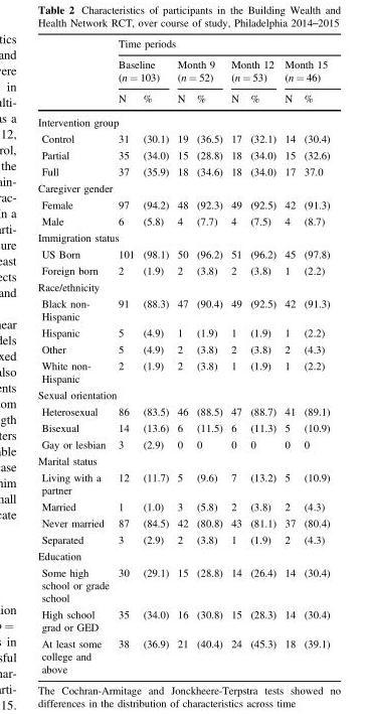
<table><thead><tr><td rowspan="3"></td><td colspan="8">Time periods</td></tr><tr><td colspan="2">Baseline (n = 103)</td><td colspan="2">Month 9 (n = 52)</td><td colspan="2">Month 12 (n = 53)</td><td colspan="2">Month 15 (n = 46)</td></tr><tr><td>N</td><td>%</td><td>N</td><td>%</td><td>N</td><td>%</td><td>N</td><td>%</td></tr></thead><tbody><tr><td colspan="9">Intervention group</td></tr><tr><td>Control</td><td>31</td><td>(30.1)</td><td>19</td><td>(36.5)</td><td>17</td><td>(32.1)</td><td>14</td><td>(30.4)</td></tr><tr><td>Partial</td><td>35</td><td>(34.0)</td><td>15</td><td>(28.8)</td><td>18</td><td>(34.0)</td><td>15</td><td>(32.6)</td></tr><tr><td>Full</td><td>37</td><td>(35.9)</td><td>18</td><td>(34.6)</td><td>18</td><td>(34.0)</td><td>17</td><td>37.0</td></tr><tr><td colspan="9">Caregiver gender</td></tr><tr><td>Female</td><td>97</td><td>(94.2)</td><td>48</td><td>(92.3)</td><td>49</td><td>(92.5)</td><td>42</td><td>(91.3)</td></tr><tr><td>Male</td><td>6</td><td>(5.8)</td><td>4</td><td>(7.7)</td><td>4</td><td>(7.5)</td><td>4</td><td>(8.7)</td></tr><tr><td colspan="9">Immigration status</td></tr><tr><td>US Born</td><td>101</td><td>(98.1)</td><td>50</td><td>(96.2)</td><td>51</td><td>(96.2)</td><td>45</td><td>(97.8)</td></tr><tr><td>Foreign born</td><td>2</td><td>(1.9)</td><td>2</td><td>(3.8)</td><td>2</td><td>(3.8)</td><td>1</td><td>(2.2)</td></tr><tr><td colspan="9">Race/ethnicity</td></tr><tr><td>Black non- Hispanic</td><td>91</td><td>(88.3)</td><td>47</td><td>(90.4)</td><td>49</td><td>(92.5)</td><td>42</td><td>(91.3)</td></tr><tr><td>Hispanic</td><td>5</td><td>(4.9)</td><td>1</td><td>(1.9)</td><td>1</td><td>(1.9)</td><td>1</td><td>(2.2)</td></tr><tr><td>Other</td><td>5</td><td>(4.9)</td><td>2</td><td>(3.8)</td><td>2</td><td>(3.8)</td><td>2</td><td>(4.3)</td></tr><tr><td>White non- Hispanic</td><td>2</td><td>(1.9)</td><td>2</td><td>(3.8)</td><td>1</td><td>(1.9)</td><td>1</td><td>(2.2)</td></tr><tr><td colspan="9">Sexual orientation</td></tr><tr><td>Heterosexual</td><td>86</td><td>(83.5)</td><td>46</td><td>(88.5)</td><td>47</td><td>(88.7)</td><td>41</td><td>(89.1)</td></tr><tr><td>Bisexual</td><td>14</td><td>(13.6)</td><td>6</td><td>(11.5)</td><td>6</td><td>(11.3)</td><td>5</td><td>(10.9)</td></tr><tr><td>Gay or lesbian</td><td>3</td><td>(2.9)</td><td>0</td><td>0</td><td>0</td><td>0</td><td>0</td><td>0</td></tr><tr><td colspan="9">Marital status</td></tr><tr><td>Living with a partner</td><td>12</td><td>(11.7)</td><td>5</td><td>(9.6)</td><td>7</td><td>(13.2)</td><td>5</td><td>(10.9)</td></tr><tr><td>Married</td><td>1</td><td>(1.0)</td><td>3</td><td>(5.8)</td><td>2</td><td>(3.8)</td><td>2</td><td>(4.3)</td></tr><tr><td>Never married</td><td>87</td><td>(84.5)</td><td>42</td><td>(80.8)</td><td>43</td><td>(81.1)</td><td>37</td><td>(80.4)</td></tr><tr><td>Separated</td><td>3</td><td>(2.9)</td><td>2</td><td>(3.8)</td><td>1</td><td>(1.9)</td><td>2</td><td>(4.3)</td></tr><tr><td colspan="9">Education</td></tr><tr><td>Some high school or grade school</td><td>30</td><td>(29.1)</td><td>15</td><td>(28.8)</td><td>14</td><td>(26.4)</td><td>14</td><td>(30.4)</td></tr><tr><td>High school grad or GED</td><td>35</td><td>(34.0)</td><td>16</td><td>(30.8)</td><td>15</td><td>(28.3)</td><td>14</td><td>(30.4)</td></tr><tr><td>At least some college and above</td><td>38</td><td>(36.9)</td><td>21</td><td>(40.4)</td><td>24</td><td>(45.3)</td><td>18</td><td>(39.1)</td></tr></tbody></table>